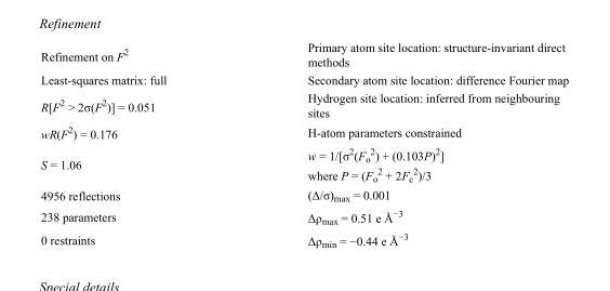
<table><tbody><tr><td>Refinement on F<sup>2</sup></td><td>Primary atom site location: structure-invariant direct methods</td></tr><tr><td>Least-squares matrix: full</td><td>Secondary atom site location: difference Fourier map</td></tr><tr><td>R[F<sup>2</sup> &gt; 2σ(F<sup>2</sup>)] = 0.051</td><td>Hydrogen site location: inferred from neighbouring sites</td></tr><tr><td>wR(F<sup>2</sup>) = 0.176</td><td>H-atom parameters constrained</td></tr><tr><td>S = 1.06</td><td>w = 1/[σ<sup>2</sup>(F<sub>o</sub> <sup>2</sup>) + (0.103P)<sup>2</sup>] where P = (F<sub>o</sub> <sup>2</sup> + 2F<sub>c</sub> <sup>2</sup>)/3</td></tr><tr><td>4956 reflections</td><td>(Δ/σ)<sub>max</sub> = 0.001</td></tr><tr><td>238 parameters</td><td>Δρ<sub>max</sub> = 0.51 e Å<sup>−3</sup></td></tr><tr><td>0 restraints</td><td>Δρ<sub>min</sub> = −0.44 e Å<sup>−3</sup></td></tr></tbody></table>